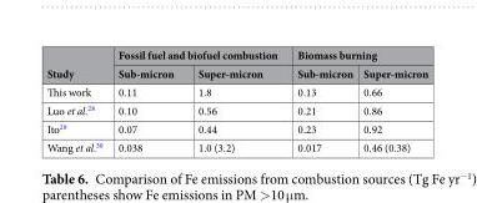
<table><thead><tr><td rowspan="2">Study</td><td colspan="2">Fossil fuel and biofuel combustion</td><td colspan="2">Biomass burning</td></tr><tr><td>Sub-micron</td><td>Super-micron</td><td>Sub-micron</td><td>Super-micron</td></tr></thead><tbody><tr><td>This work</td><td>0.11</td><td>1.8</td><td>0.13</td><td>0.66</td></tr><tr><td>Luo et al.<sup>28</sup></td><td>0.10</td><td>0.56</td><td>0.21</td><td>0.86</td></tr><tr><td>Ito<sup>29</sup></td><td>0.07</td><td>0.44</td><td>0.23</td><td>0.92</td></tr><tr><td>Wang et al.<sup>30</sup></td><td>0.038</td><td>1.0 (3.2)</td><td>0.017</td><td>0.46 (0.38)</td></tr></tbody></table>